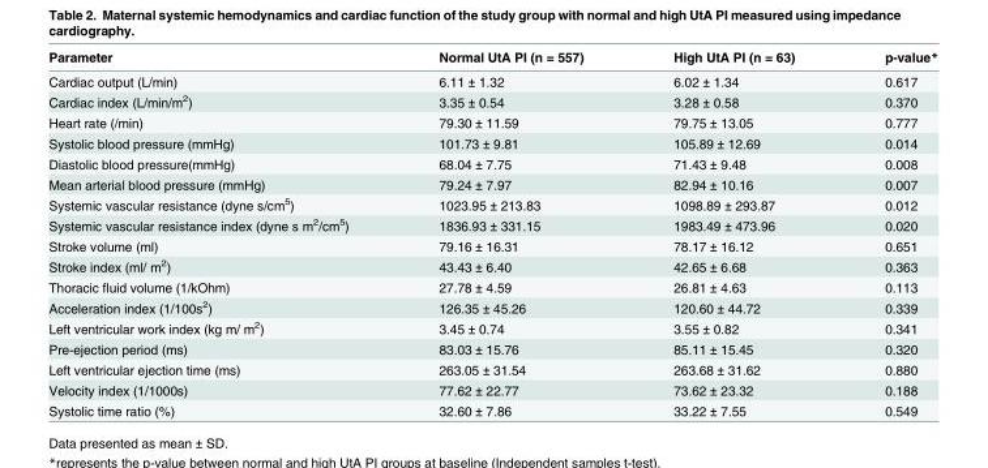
<table><thead><tr><td>Parameter</td><td>Normal UtA PI (n = 557)</td><td>High UtA PI (n = 63)</td><td>p-value*</td></tr></thead><tbody><tr><td>Cardiac output (L/min)</td><td>6.11 ± 1.32</td><td>6.02 ± 1.34</td><td>0.617</td></tr><tr><td>Cardiac index (L/min/m<sup>2</sup>)</td><td>3.35 ± 0.54</td><td>3.28 ± 0.58</td><td>0.370</td></tr><tr><td>Heart rate (/min)</td><td>79.30 ± 11.59</td><td>79.75 ± 13.05</td><td>0.777</td></tr><tr><td>Systolic blood pressure (mmHg)</td><td>101.73 ± 9.81</td><td>105.89 ± 12.69</td><td>0.014</td></tr><tr><td>Diastolic blood pressure(mmHg)</td><td>68.04 ± 7.75</td><td>71.43 ± 9.48</td><td>0.008</td></tr><tr><td>Mean arterial blood pressure (mmHg)</td><td>79.24 ± 7.97</td><td>82.94 ± 10.16</td><td>0.007</td></tr><tr><td>Systemic vascular resistance (dyne s/cm<sup>5</sup>)</td><td>1023.95 ± 213.83</td><td>1098.89 ± 293.87</td><td>0.012</td></tr><tr><td>Systemic vascular resistance index (dyne s m<sup>2</sup>/cm<sup>5</sup>)</td><td>1836.93 ± 331.15</td><td>1983.49 ± 473.96</td><td>0.020</td></tr><tr><td>Stroke volume (ml)</td><td>79.16 ± 16.31</td><td>78.17 ± 16.12</td><td>0.651</td></tr><tr><td>Stroke index (ml/ m<sup>2</sup>)</td><td>43.43 ± 6.40</td><td>42.65 ± 6.68</td><td>0.363</td></tr><tr><td>Thoracic fluid volume (1/kOhm)</td><td>27.78 ± 4.59</td><td>26.81 ± 4.63</td><td>0.113</td></tr><tr><td>Acceleration index (1/100s<sup>2</sup>)</td><td>126.35 ± 45.26</td><td>120.60 ± 44.72</td><td>0.339</td></tr><tr><td>Left ventricular work index (kg m/ m<sup>2</sup>)</td><td>3.45 ± 0.74</td><td>3.55 ± 0.82</td><td>0.341</td></tr><tr><td>Pre-ejection period (ms)</td><td>83.03 ± 15.76</td><td>85.11 ± 15.45</td><td>0.320</td></tr><tr><td>Left ventricular ejection time (ms)</td><td>263.05 ± 31.54</td><td>263.68 ± 31.62</td><td>0.880</td></tr><tr><td>Velocity index (1/1000s)</td><td>77.62 ± 22.77</td><td>73.62 ± 23.32</td><td>0.188</td></tr><tr><td>Systolic time ratio (%)</td><td>32.60 ± 7.86</td><td>33.22 ± 7.55</td><td>0.549</td></tr></tbody></table>